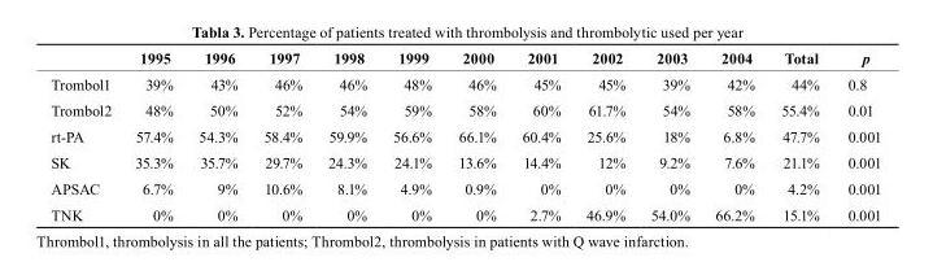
<table><thead><tr><td></td><td>1995</td><td>1996</td><td>1997</td><td>1998</td><td>1999</td><td>2000</td><td>2001</td><td>2002</td><td>2003</td><td>2004</td><td>total</td><td>p</td></tr></thead><tbody><tr><td>Trombol1</td><td>39%</td><td>43%</td><td>46%</td><td>46%</td><td>48%</td><td>46%</td><td>45%</td><td>45%</td><td>39%</td><td>42%</td><td>44%</td><td>0.8</td></tr><tr><td>Trombol2</td><td>48%</td><td>50%</td><td>52%</td><td>54%</td><td>59%</td><td>58%</td><td>60%</td><td>61.7%</td><td>54%</td><td>58%</td><td>55.4%</td><td>0.01</td></tr><tr><td>rt-PA</td><td>57.4%</td><td>54.3%</td><td>58.4%</td><td>59.9%</td><td>56.6%</td><td>66.1%</td><td>60.4%</td><td>25.6%</td><td>18%</td><td>6.8%</td><td>47.7%</td><td>0.001</td></tr><tr><td>SK</td><td>35.3%</td><td>35.7%</td><td>29.7%</td><td>24.3%</td><td>24.1%</td><td>13.6%</td><td>14.4%</td><td>12%</td><td>9.2%</td><td>7.6%</td><td>21.1%</td><td>0.001</td></tr><tr><td>APSAC</td><td>6.7%</td><td>9%</td><td>10.6%</td><td>8.1%</td><td>4.9%</td><td>0.9%</td><td>0%</td><td>0%</td><td>0%</td><td>0%</td><td>4.2%</td><td>0.001</td></tr><tr><td>TNK</td><td>0%</td><td>0%</td><td>0%</td><td>0%</td><td>0%</td><td>0%</td><td>2.7%</td><td>46.9%</td><td>54.0%</td><td>66.2%</td><td>15.1%</td><td>0.001</td></tr></tbody></table>